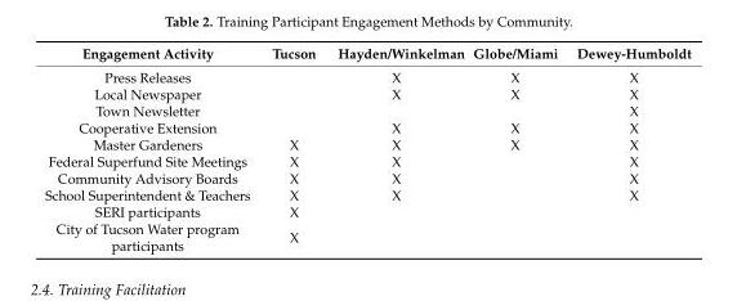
<table><thead><tr><td>Engagement Activity</td><td>Tucson</td><td>Hayden/Winkelman</td><td>Globe/Miami</td><td>Dewey-Humboldt</td></tr></thead><tbody><tr><td>Press Releases</td><td></td><td>X</td><td>X</td><td>X</td></tr><tr><td>Local Newspaper</td><td></td><td>X</td><td>X</td><td>X</td></tr><tr><td>Town Newsletter</td><td></td><td></td><td></td><td>X</td></tr><tr><td>Cooperative Extension</td><td></td><td>X</td><td>X</td><td>X</td></tr><tr><td>Master Gardeners</td><td>X</td><td>X</td><td>X</td><td>X</td></tr><tr><td>Federal Superfund Site Meetings</td><td>X</td><td>X</td><td></td><td>X</td></tr><tr><td>Community Advisory Boards</td><td>X</td><td>X</td><td></td><td>X</td></tr><tr><td>School Superintendent &amp; Teachers</td><td>X</td><td>X</td><td></td><td>X</td></tr><tr><td>SERI participants</td><td>X</td><td></td><td></td><td></td></tr><tr><td>City of Tucson Water program participants</td><td>X</td><td></td><td></td><td></td></tr></tbody></table>